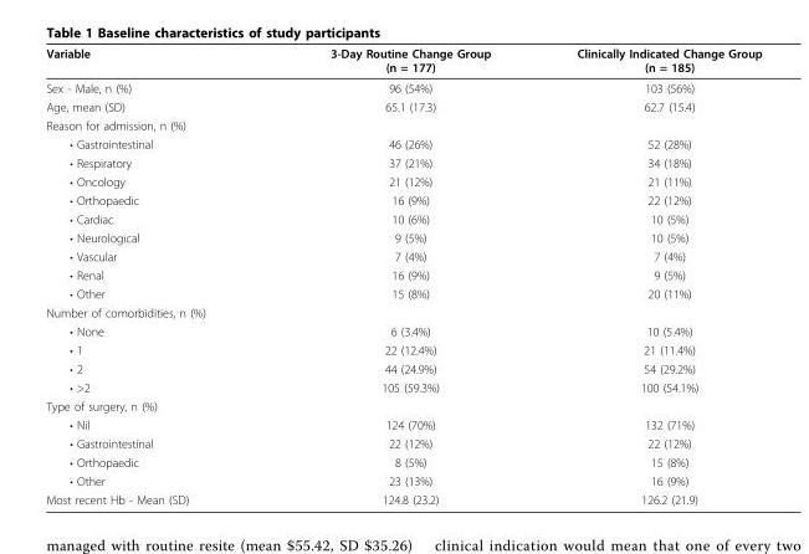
<table><thead><tr><td>Variable</td><td>3-Day Routine Change Group (n = 177)</td><td>Clinically Indicated Change Group (n = 185)</td></tr></thead><tbody><tr><td>Sex - Male, n (%)</td><td>96 (54%)</td><td>103 (56%)</td></tr><tr><td>Age, mean (SD)</td><td>65.1 (17.3)</td><td>62.7 (15.4)</td></tr><tr><td colspan="3">Reason for admission, n (%)</td></tr><tr><td>• Gastrointestinal</td><td>46 (26%)</td><td>52 (28%)</td></tr><tr><td>• Respiratory</td><td>37 (21%)</td><td>34 (18%)</td></tr><tr><td>• Oncology</td><td>21 (12%)</td><td>21 (11%)</td></tr><tr><td>• Orthopaedic</td><td>16 (9%)</td><td>22 (12%)</td></tr><tr><td>• Cardiac</td><td>10 (6%)</td><td>10 (5%)</td></tr><tr><td>• Neurological</td><td>9 (5%)</td><td>10 (5%)</td></tr><tr><td>• Vascular</td><td>7 (4%)</td><td>7 (4%)</td></tr><tr><td>• Renal</td><td>16 (9%)</td><td>9 (5%)</td></tr><tr><td>• Other</td><td>15 (8%)</td><td>20 (11%)</td></tr><tr><td colspan="3">Number of comorbidities, n (%)</td></tr><tr><td>• None</td><td>6 (3.4%)</td><td>10 (5.4%)</td></tr><tr><td>• 1</td><td>22 (12.4%)</td><td>21 (11.4%)</td></tr><tr><td>• 2</td><td>44 (24.9%)</td><td>54 (29.2%)</td></tr><tr><td>• &gt;2</td><td>105 (59.3%)</td><td>100 (54.1%)</td></tr><tr><td colspan="3">Type of surgery, n (%)</td></tr><tr><td>• Nil</td><td>124 (70%)</td><td>132 (71%)</td></tr><tr><td>• Gastrointestinal</td><td>22 (12%)</td><td>22 (12%)</td></tr><tr><td>• Orthopaedic</td><td>8 (5%)</td><td>15 (8%)</td></tr><tr><td>• Other</td><td>23 (13%)</td><td>16 (9%)</td></tr><tr><td>Most recent Hb - Mean (SD)</td><td>124.8 (23.2)</td><td>126.2 (21.9)</td></tr></tbody></table>